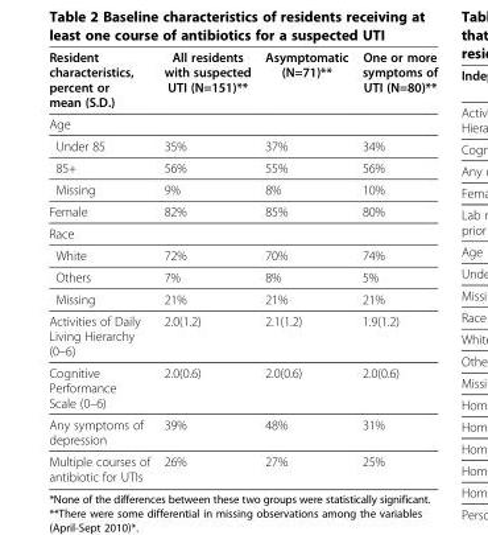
<table><thead><tr><td>Resident characteristics, percent or mean (S.D.)</td><td>All residents with suspected UTI (N=151)**</td><td>Asymptomatic (N=71)**</td><td>One or more symptoms of UTI (N=80)**</td></tr></thead><tbody><tr><td colspan="4">Age</td></tr><tr><td>Under 85</td><td>35%</td><td>37%</td><td>34%</td></tr><tr><td>85+</td><td>56%</td><td>55%</td><td>56%</td></tr><tr><td>Missing</td><td>9%</td><td>8%</td><td>10%</td></tr><tr><td>Female</td><td>82%</td><td>85%</td><td>80%</td></tr><tr><td colspan="4">Race</td></tr><tr><td>White</td><td>72%</td><td>70%</td><td>74%</td></tr><tr><td>Others</td><td>7%</td><td>8%</td><td>5%</td></tr><tr><td>Missing</td><td>21%</td><td>21%</td><td>21%</td></tr><tr><td>Activities of Daily Living Hierarchy (0–6)</td><td>2.0(1.2)</td><td>2.1(1.2)</td><td>1.9(1.2)</td></tr><tr><td>Cognitive Performance Scale (0–6)</td><td>2.0(0.6)</td><td>2.0(0.6)</td><td>2.0(0.6)</td></tr><tr><td>Any symptoms of depression</td><td>39%</td><td>48%</td><td>31%</td></tr><tr><td>Multiple courses of antibiotic for UTIs</td><td>26%</td><td>27%</td><td>25%</td></tr></tbody></table>